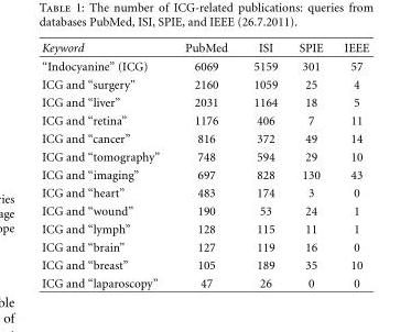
<table><thead><tr><td>Keyword</td><td>PubMed</td><td>ISI</td><td>SPIE</td><td>IEEE</td></tr></thead><tbody><tr><td>“Indocyanine” (ICG)</td><td>6069</td><td>5159</td><td>301</td><td>57</td></tr><tr><td>ICG and “surgery”</td><td>2160</td><td>1059</td><td>25</td><td>4</td></tr><tr><td>ICG and “liver”</td><td>2031</td><td>1164</td><td>18</td><td>5</td></tr><tr><td>ICG and “retina”</td><td>1176</td><td>406</td><td>7</td><td>11</td></tr><tr><td>ICG and “cancer”</td><td>816</td><td>372</td><td>49</td><td>14</td></tr><tr><td>ICG and “tomography”</td><td>748</td><td>594</td><td>29</td><td>10</td></tr><tr><td>ICG and “imaging”</td><td>697</td><td>828</td><td>130</td><td>43</td></tr><tr><td>ICG and “heart”</td><td>483</td><td>174</td><td>3</td><td>0</td></tr><tr><td>ICG and “wound”</td><td>190</td><td>53</td><td>24</td><td>1</td></tr><tr><td>ICG and “lymph”</td><td>128</td><td>115</td><td>11</td><td>1</td></tr><tr><td>ICG and “brain”</td><td>127</td><td>119</td><td>16</td><td>0</td></tr><tr><td>ICG and “breast”</td><td>105</td><td>189</td><td>35</td><td>10</td></tr><tr><td>ICG and “laparoscopy”</td><td>47</td><td>26</td><td>0</td><td>0</td></tr></tbody></table>